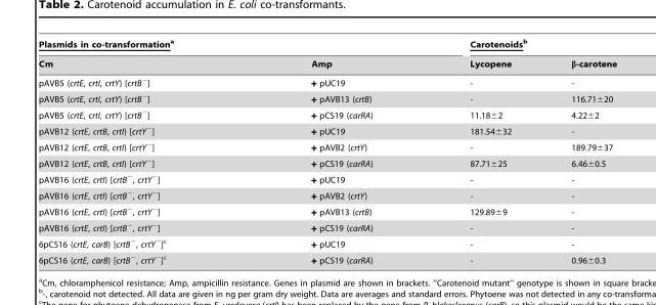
<table><thead><tr><td colspan="2">Plasmids in co-transformationa</td><td colspan="2">Carotenoidsb</td></tr><tr><td>Cm</td><td>Amp</td><td>Lycopene</td><td>β-carotene</td></tr></thead><tbody><tr><td>pAVB5 (crtE, crtI, crtY) [crtB<sup>−</sup>]</td><td>+ pUC19</td><td>-</td><td>-</td></tr><tr><td>pAVB5 (crtE, crtI, crtY) [crtB<sup>−</sup>]</td><td>+ pAVB13 (crtB)</td><td>-</td><td>116.71±20</td></tr><tr><td>pAVB5 (crtE, crtI, crtY) [crtB<sup>−</sup>]</td><td>+ pCS19 (carRA)</td><td>11.18±2</td><td>4.22±2</td></tr><tr><td>pAVB12 (crtE, crtB, crtI) [crtY<sup>−</sup>]</td><td>+ pUC19</td><td>181.54±32</td><td>-</td></tr><tr><td>pAVB12 (crtE, crtB, crtI) [crtY<sup>−</sup>]</td><td>+ pAVB2 (crtY)</td><td>-</td><td>189.79±37</td></tr><tr><td>pAVB12 (crtE, crtB, crtI) [crtY<sup>−</sup>]</td><td>+ pCS19 (carRA)</td><td>87.71±25</td><td>6.46±0.5</td></tr><tr><td>pAVB16 (crtE, crtI) [crtB<sup>−</sup>, crtY<sup>−</sup>]</td><td>+ pUC19</td><td>-</td><td>-</td></tr><tr><td>pAVB16 (crtE, crtI) [crtB<sup>−</sup>, crtY<sup>−</sup>]</td><td>+ pAVB2 (crtY)</td><td>-</td><td>-</td></tr><tr><td>pAVB16 (crtE, crtI) [crtB<sup>−</sup>, crtY<sup>−</sup>]</td><td>+ pAVB13 (crtB)</td><td>129.89±9</td><td>-</td></tr><tr><td>pAVB16 (crtE, crtI) [crtB<sup>−</sup>, crtY<sup>−</sup>]</td><td>+ pCS19 (carRA)</td><td>-</td><td>-</td></tr><tr><td>6pCS16 (crtE, carB) [crtB<sup>−</sup>, crtY<sup>−</sup>]<sup>c</sup></td><td>+ pUC19</td><td>-</td><td>-</td></tr><tr><td>6pCS16 (crtE, carB) [crtB<sup>−</sup>, crtY<sup>−</sup>]<sup>c</sup></td><td>+ pCS19 (carRA)</td><td>-</td><td>0.96±0.3</td></tr></tbody></table>